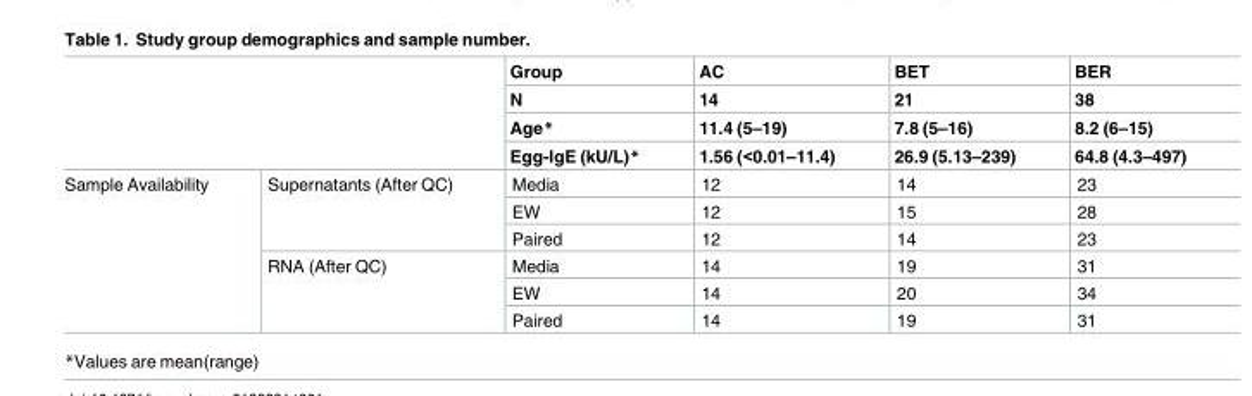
<table><thead><tr><td rowspan="4"></td><td rowspan="4"></td><td rowspan="4">Group N Age* Egg-IgE (kU/L)*</td><td rowspan="4">AC 14 11.4 (5–19) 1.56 (&lt;0.01–11.4)</td><td rowspan="4">BET 21 7.8 (5–16) 26.9 (5.13–239)</td><td rowspan="4">BER 38 8.2 (6–15) 64.8 (4.3–497)</td></tr><tr></tr><tr></tr><tr></tr></thead><tbody><tr><td rowspan="6">Sample Availability</td><td rowspan="3">Supernatants (After QC)</td><td>Media</td><td>12</td><td>14</td><td>23</td></tr><tr><td>EW</td><td>12</td><td>15</td><td>28</td></tr><tr><td>Paired</td><td>12</td><td>14</td><td>23</td></tr><tr><td rowspan="3">RNA (After QC)</td><td>Media</td><td>14</td><td>19</td><td>31</td></tr><tr><td>EW</td><td>14</td><td>20</td><td>34</td></tr><tr><td>Paired</td><td>14</td><td>19</td><td>31</td></tr></tbody></table>